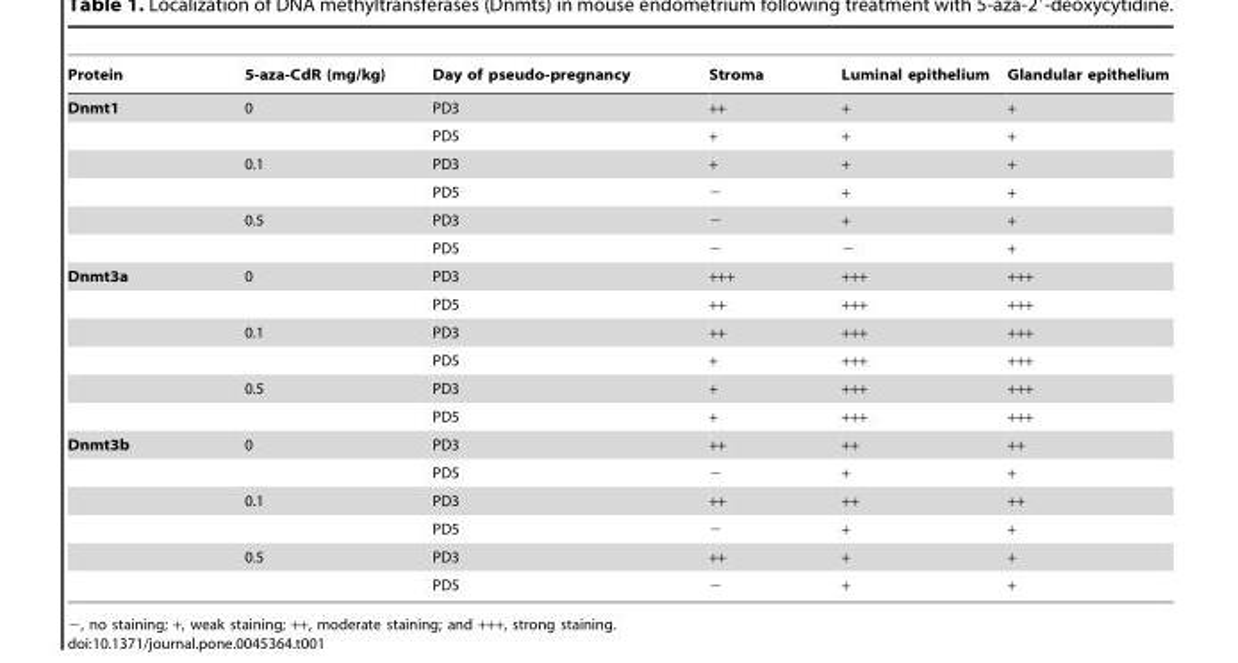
<table><thead><tr><td>Protein</td><td>5-aza-CdR (mg/kg)</td><td>Day of pseudo-pregnancy</td><td>Stroma</td><td>Luminal epithelium</td><td>Glandular epithelium</td></tr></thead><tbody><tr><td rowspan="6">Dnmt1</td><td>0</td><td>PD3</td><td>++</td><td>+</td><td>+</td></tr><tr><td></td><td>PD5</td><td>+</td><td>+</td><td>+</td></tr><tr><td>0.1</td><td>PD3</td><td>+</td><td>+</td><td>+</td></tr><tr><td></td><td>PD5</td><td>−</td><td>+</td><td>+</td></tr><tr><td>0.5</td><td>PD3</td><td>−</td><td>+</td><td>+</td></tr><tr><td></td><td>PD5</td><td>−</td><td>−</td><td>+</td></tr><tr><td rowspan="6">Dnmt3a</td><td>0</td><td>PD3</td><td>+++</td><td>+++</td><td>+++</td></tr><tr><td></td><td>PD5</td><td>++</td><td>+++</td><td>+++</td></tr><tr><td>0.1</td><td>PD3</td><td>++</td><td>+++</td><td>+++</td></tr><tr><td></td><td>PD5</td><td>+</td><td>+++</td><td>+++</td></tr><tr><td>0.5</td><td>PD3</td><td>+</td><td>+++</td><td>+++</td></tr><tr><td></td><td>PD5</td><td>+</td><td>+++</td><td>+++</td></tr><tr><td rowspan="6">Dnmt3b</td><td>0</td><td>PD3</td><td>++</td><td>++</td><td>++</td></tr><tr><td></td><td>PD5</td><td>−</td><td>+</td><td>+</td></tr><tr><td>0.1</td><td>PD3</td><td>++</td><td>++</td><td>++</td></tr><tr><td></td><td>PD5</td><td>−</td><td>+</td><td>+</td></tr><tr><td>0.5</td><td>PD3</td><td>++</td><td>+</td><td>+</td></tr><tr><td></td><td>PD5</td><td>−</td><td>+</td><td>+</td></tr></tbody></table>